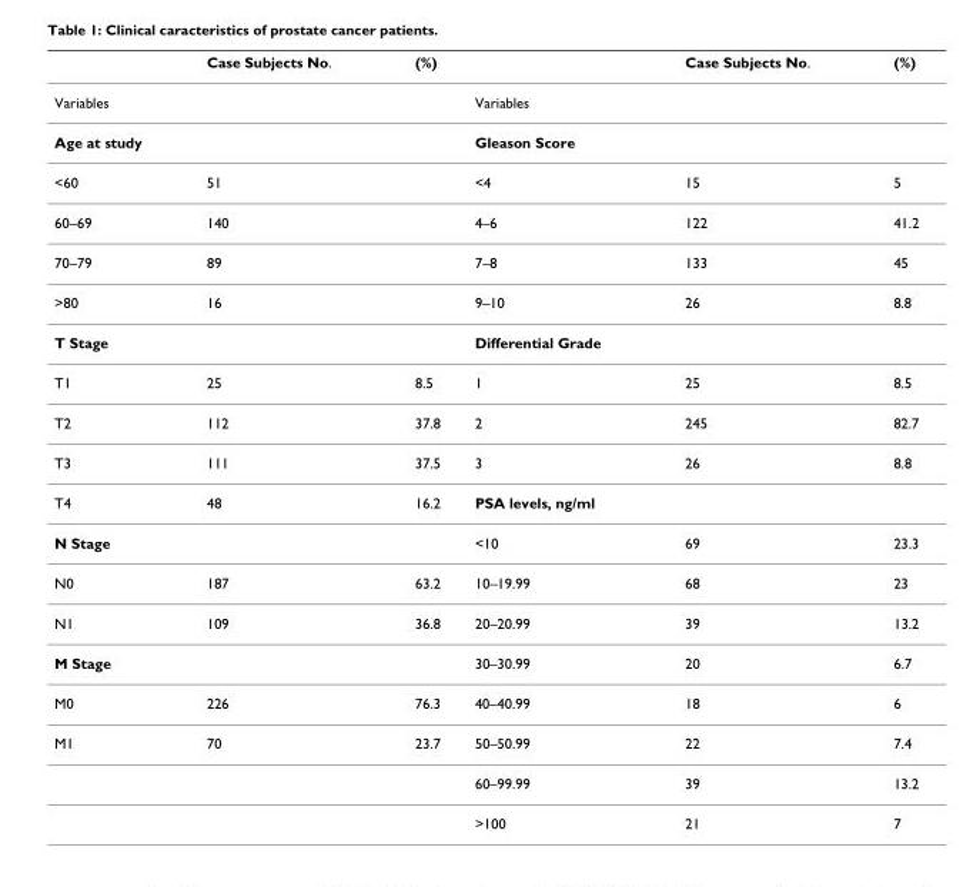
<table><thead><tr><td></td><td>Case Subjects No.</td><td>(%)</td><td></td><td>Case Subjects No.</td><td>(%)</td></tr></thead><tbody><tr><td>Variables</td><td></td><td></td><td>Variables</td><td></td><td></td></tr><tr><td>Age at study</td><td></td><td></td><td>Gleason Score</td><td></td><td></td></tr><tr><td>&lt;60</td><td>51</td><td></td><td>&lt;4</td><td>15</td><td>5</td></tr><tr><td>60–69</td><td>140</td><td></td><td>4–6</td><td>122</td><td>41.2</td></tr><tr><td>70–79</td><td>89</td><td></td><td>7–8</td><td>133</td><td>45</td></tr><tr><td>&gt;80</td><td>16</td><td></td><td>9–10</td><td>26</td><td>8.8</td></tr><tr><td>T Stage</td><td></td><td></td><td>Differential Grade</td><td></td><td></td></tr><tr><td>T1</td><td>25</td><td>8.5</td><td>1</td><td>25</td><td>8.5</td></tr><tr><td>T2</td><td>112</td><td>37.8</td><td>2</td><td>245</td><td>82.7</td></tr><tr><td>T3</td><td>111</td><td>37.5</td><td>3</td><td>26</td><td>8.8</td></tr><tr><td>T4</td><td>48</td><td>16.2</td><td>PSA levels, ng/ml</td><td></td><td></td></tr><tr><td>N Stage</td><td></td><td></td><td>&lt;10</td><td>69</td><td>23.3</td></tr><tr><td>N0</td><td>187</td><td>63.2</td><td>10–19.99</td><td>68</td><td>23</td></tr><tr><td>N1</td><td>109</td><td>36.8</td><td>20–20.99</td><td>39</td><td>13.2</td></tr><tr><td>M Stage</td><td></td><td></td><td>30–30.99</td><td>20</td><td>6.7</td></tr><tr><td>M0</td><td>226</td><td>76.3</td><td>40–40.99</td><td>18</td><td>6</td></tr><tr><td rowspan="3">M1</td><td>70</td><td>23.7</td><td>50–50.99</td><td>22</td><td>7.4</td></tr><tr><td></td><td></td><td>60–99.99</td><td>39</td><td>13.2</td></tr><tr><td></td><td></td><td>&gt;100</td><td>21</td><td>7</td></tr></tbody></table>